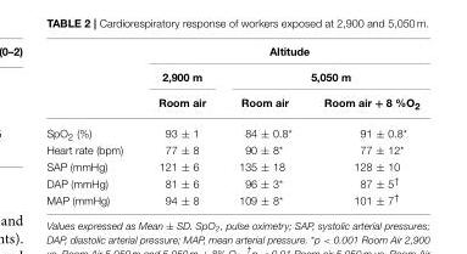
<table><thead><tr><td rowspan="3"></td><td colspan="3">Altitude</td></tr><tr><td rowspan="2">2,900 m Room air</td><td colspan="2">5,050 m</td></tr><tr><td>Room air</td><td>Room air + 8 %O<sub>2</sub></td></tr></thead><tbody><tr><td>SpO<sub>2</sub> (%)</td><td>93 ± 1</td><td>84 ± 0.8*</td><td>91 ± 0.8*</td></tr><tr><td>Heart rate (bpm)</td><td>77 ± 8</td><td>90 ± 8*</td><td>77 ± 12*</td></tr><tr><td>SAP (mmHg)</td><td>121 ± 6</td><td>135 ± 18</td><td>128 ± 10</td></tr><tr><td>DAP (mmHg)</td><td>81 ± 6</td><td>96 ± 3*</td><td>87 ± 5<sup>†</sup></td></tr><tr><td>MAP (mmHg)</td><td>94 ± 8</td><td>109 ± 8*</td><td>101 ± 7<sup>†</sup></td></tr></tbody></table>